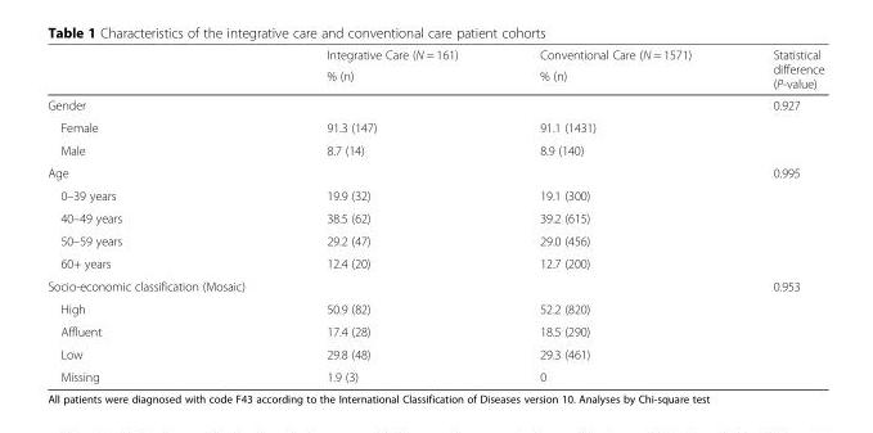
<table><thead><tr><td rowspan="2"></td><td rowspan="2">Integrative Care (N = 161) % (n)</td><td rowspan="2">Conventional Care (N = 1571) % (n)</td><td rowspan="2">Statistical difference (P-value)</td></tr><tr></tr></thead><tbody><tr><td colspan="3">Gender</td><td rowspan="3">0.927</td></tr><tr><td>Female</td><td>91.3 (147)</td><td>91.1 (1431)</td></tr><tr><td>Male</td><td>8.7 (14)</td><td>8.9 (140)</td></tr><tr><td colspan="3">Age</td><td rowspan="5">0.995</td></tr><tr><td>0–39 years</td><td>19.9 (32)</td><td>19.1 (300)</td></tr><tr><td>40–49 years</td><td>38.5 (62)</td><td>39.2 (615)</td></tr><tr><td>50–59 years</td><td>29.2 (47)</td><td>29.0 (456)</td></tr><tr><td>60+ years</td><td>12.4 (20)</td><td>12.7 (200)</td></tr><tr><td colspan="3">Socio-economic classification (Mosaic)</td><td rowspan="5">0.953</td></tr><tr><td>High</td><td>50.9 (82)</td><td>52.2 (820)</td></tr><tr><td>Affluent</td><td>17.4 (28)</td><td>18.5 (290)</td></tr><tr><td>Low</td><td>29.8 (48)</td><td>29.3 (461)</td></tr><tr><td>Missing</td><td>1.9 (3)</td><td>0</td></tr></tbody></table>